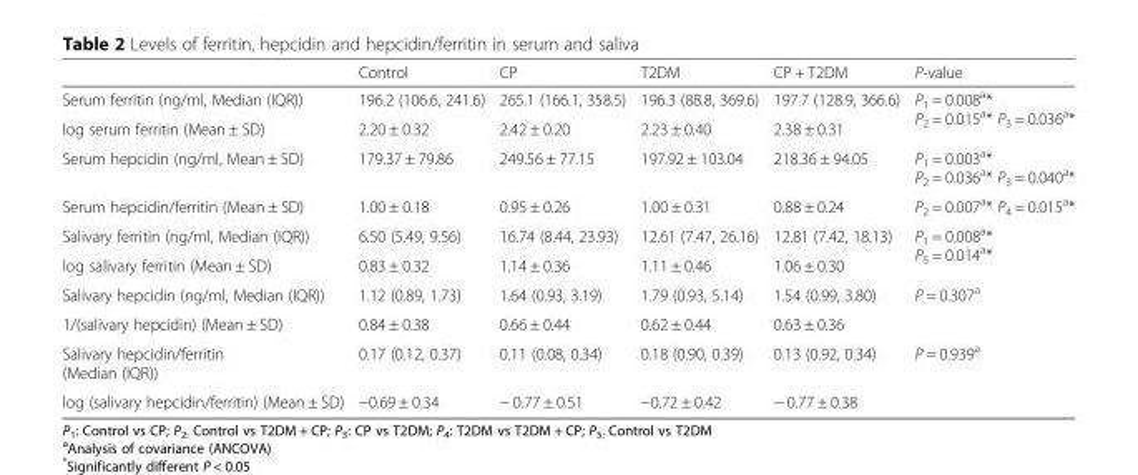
<table><thead><tr><td></td><td>Control</td><td>CP</td><td>T2DM</td><td>CP + T2DM</td><td>P-value</td></tr></thead><tbody><tr><td>Serum ferritin (ng/ml, Median (IQR))</td><td>196.2 (106.6, 241.6)</td><td>265.1 (166.1, 358.5)</td><td>196.3 (88.8, 369.6)</td><td>197.7 (128.9, 366.6)</td><td rowspan="2">P<sub>1</sub> = 0.008<sup>a</sup>* P<sub>2</sub> = 0.015<sup>a</sup>* P<sub>3</sub> = 0.036<sup>a</sup>*</td></tr><tr><td>log serum ferritin (Mean ± SD)</td><td>2.20 ± 0.32</td><td>2.42 ± 0.20</td><td>2.23 ± 0.40</td><td>2.38 ± 0.31</td></tr><tr><td>Serum hepcidin (ng/ml, Mean ± SD)</td><td>179.37 ± 79.86</td><td>249.56 ± 77.15</td><td>197.92 ± 103.04</td><td>218.36 ± 94.05</td><td>P<sub>1</sub> = 0.003<sup>a</sup>* P<sub>2</sub> = 0.036<sup>a</sup>* P<sub>3</sub> = 0.040<sup>a</sup>*</td></tr><tr><td>Serum hepcidin/ferritin (Mean ± SD)</td><td>1.00 ± 0.18</td><td>0.95 ± 0.26</td><td>1.00 ± 0.31</td><td>0.88 ± 0.24</td><td>P<sub>2</sub> = 0.007<sup>a</sup>* P<sub>4</sub> = 0.015<sup>a</sup>*</td></tr><tr><td>Salivary ferritin (ng/ml, Median (IQR))</td><td>6.50 (5.49, 9.56)</td><td>16.74 (8.44, 23.93)</td><td>12.61 (7.47, 26.16)</td><td>12.81 (7.42, 18.13)</td><td rowspan="2">P<sub>1</sub> = 0.008<sup>a</sup>* P<sub>5</sub> = 0.014<sup>a</sup>*</td></tr><tr><td>log salivary ferritin (Mean ± SD)</td><td>0.83 ± 0.32</td><td>1.14 ± 0.36</td><td>1.11 ± 0.46</td><td>1.06 ± 0.30</td></tr><tr><td>Salivary hepcidin (ng/ml, Median (IQR))</td><td>1.12 (0.89, 1.73)</td><td>1.64 (0.93, 3.19)</td><td>1.79 (0.93, 5.14)</td><td>1.54 (0.99, 3.80)</td><td rowspan="2">P = 0.307<sup>a</sup></td></tr><tr><td>1/(salivary hepcidin) (Mean ± SD)</td><td>0.84 ± 0.38</td><td>0.66 ± 0.44</td><td>0.62 ± 0.44</td><td>0.63 ± 0.36</td></tr><tr><td>Salivary hepcidin/ferritin (Median (IQR))</td><td>0.17 (0.12, 0.37)</td><td>0.11 (0.08, 0.34)</td><td>0.18 (0.90, 0.39)</td><td>0.13 (0.92, 0.34)</td><td rowspan="2">P = 0.939<sup>a</sup></td></tr><tr><td>log (salivary hepcidin/ferritin) (Mean ± SD)</td><td>−0.69 ± 0.34</td><td>− 0.77 ± 0.51</td><td>−0.72 ± 0.42</td><td>− 0.77 ± 0.38</td></tr></tbody></table>